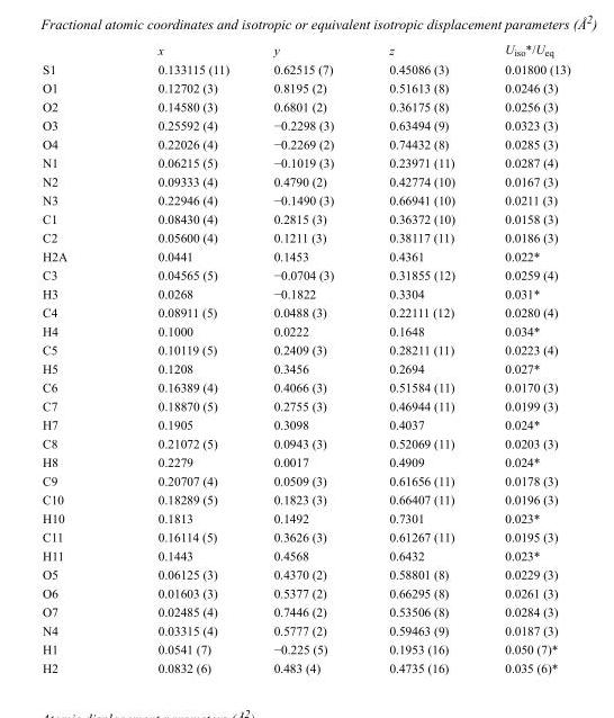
<table><thead><tr><td></td><td>x</td><td>y</td><td>z</td><td>U<sub>iso</sub>*/U<sub>eq</sub></td></tr></thead><tbody><tr><td>S1</td><td>0.133115 (11)</td><td>0.62515 (7)</td><td>0.45086 (3)</td><td>0.01800 (13)</td></tr><tr><td>O1</td><td>0.12702 (3)</td><td>0.8195 (2)</td><td>0.51613 (8)</td><td>0.0246 (3)</td></tr><tr><td>O2</td><td>0.14580 (3)</td><td>0.6801 (2)</td><td>0.36175 (8)</td><td>0.0256 (3)</td></tr><tr><td>O3</td><td>0.25592 (4)</td><td>−0.2298 (3)</td><td>0.63494 (9)</td><td>0.0323 (3)</td></tr><tr><td>O4</td><td>0.22026 (4)</td><td>−0.2269 (2)</td><td>0.74432 (8)</td><td>0.0285 (3)</td></tr><tr><td>N1</td><td>0.06215 (5)</td><td>−0.1019 (3)</td><td>0.23971 (11)</td><td>0.0287 (4)</td></tr><tr><td>N2</td><td>0.09333 (4)</td><td>0.4790 (2)</td><td>0.42774 (10)</td><td>0.0167 (3)</td></tr><tr><td>N3</td><td>0.22946 (4)</td><td>−0.1490 (3)</td><td>0.66941 (10)</td><td>0.0211 (3)</td></tr><tr><td>C1</td><td>0.08430 (4)</td><td>0.2815 (3)</td><td>0.36372 (10)</td><td>0.0158 (3)</td></tr><tr><td>C2</td><td>0.05600 (4)</td><td>0.1211 (3)</td><td>0.38117 (11)</td><td>0.0186 (3)</td></tr><tr><td>H2A</td><td>0.0441</td><td>0.1453</td><td>0.4361</td><td>0.022*</td></tr><tr><td>C3</td><td>0.04565 (5)</td><td>−0.0704 (3)</td><td>0.31855 (12)</td><td>0.0259 (4)</td></tr><tr><td>H3</td><td>0.0268</td><td>−0.1822</td><td>0.3304</td><td>0.031*</td></tr><tr><td>C4</td><td>0.08911 (5)</td><td>0.0488 (3)</td><td>0.22111 (12)</td><td>0.0280 (4)</td></tr><tr><td>H4</td><td>0.1000</td><td>0.0222</td><td>0.1648</td><td>0.034*</td></tr><tr><td>C5</td><td>0.10119 (5)</td><td>0.2409 (3)</td><td>0.28211 (11)</td><td>0.0223 (4)</td></tr><tr><td>H5</td><td>0.1208</td><td>0.3456</td><td>0.2694</td><td>0.027*</td></tr><tr><td>C6</td><td>0.16389 (4)</td><td>0.4066 (3)</td><td>0.51584 (11)</td><td>0.0170 (3)</td></tr><tr><td>C7</td><td>0.18870 (5)</td><td>0.2755 (3)</td><td>0.46944 (11)</td><td>0.0199 (3)</td></tr><tr><td>H7</td><td>0.1905</td><td>0.3098</td><td>0.4037</td><td>0.024*</td></tr><tr><td>C8</td><td>0.21072 (5)</td><td>0.0943 (3)</td><td>0.52069 (11)</td><td>0.0203 (3)</td></tr><tr><td>H8</td><td>0.2279</td><td>0.0017</td><td>0.4909</td><td>0.024*</td></tr><tr><td>C9</td><td>0.20707 (4)</td><td>0.0509 (3)</td><td>0.61656 (11)</td><td>0.0178 (3)</td></tr><tr><td>C10</td><td>0.18289 (5)</td><td>0.1823 (3)</td><td>0.66407 (11)</td><td>0.0196 (3)</td></tr><tr><td>H10</td><td>0.1813</td><td>0.1492</td><td>0.7301</td><td>0.023*</td></tr><tr><td>C11</td><td>0.16114 (5)</td><td>0.3626 (3)</td><td>0.61267 (11)</td><td>0.0195 (3)</td></tr><tr><td>H11</td><td>0.1443</td><td>0.4568</td><td>0.6432</td><td>0.023*</td></tr><tr><td>O5</td><td>0.06125 (3)</td><td>0.4370 (2)</td><td>0.58801 (8)</td><td>0.0229 (3)</td></tr><tr><td>O6</td><td>0.01603 (3)</td><td>0.5377 (2)</td><td>0.66295 (8)</td><td>0.0261 (3)</td></tr><tr><td>O7</td><td>0.02485 (4)</td><td>0.7446 (2)</td><td>0.53506 (8)</td><td>0.0284 (3)</td></tr><tr><td>N4</td><td>0.03315 (4)</td><td>0.5777 (2)</td><td>0.59463 (9)</td><td>0.0187 (3)</td></tr><tr><td>H1</td><td>0.0541 (7)</td><td>−0.225 (5)</td><td>0.1953 (16)</td><td>0.050 (7)*</td></tr><tr><td>H2</td><td>0.0832 (6)</td><td>0.483 (4)</td><td>0.4735 (16)</td><td>0.035 (6)*</td></tr></tbody></table>